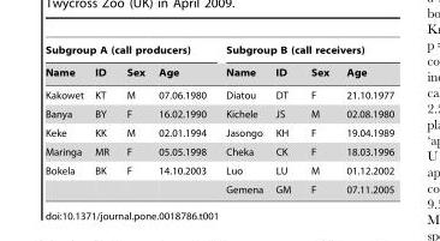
<table><thead><tr><td colspan="4">Subgroup A (call producers)</td><td colspan="4">Subgroup B (call receivers)</td></tr><tr><td>Name</td><td>ID</td><td>Sex</td><td>Age</td><td>Name</td><td>ID</td><td>Sex</td><td>Age</td></tr></thead><tbody><tr><td>Kakowet</td><td>KT</td><td>M</td><td>07.06.1980</td><td>Diatou</td><td>DT</td><td>F</td><td>21.10.1977</td></tr><tr><td>Banya</td><td>BY</td><td>F</td><td>16.02.1990</td><td>Kichele</td><td>JS</td><td>M</td><td>02.08.1980</td></tr><tr><td>Keke</td><td>KK</td><td>M</td><td>02.01.1994</td><td>Jasongo</td><td>KH</td><td>F</td><td>19.04.1989</td></tr><tr><td>Maringa</td><td>MR</td><td>F</td><td>05.05.1998</td><td>Cheka</td><td>CK</td><td>F</td><td>18.03.1996</td></tr><tr><td rowspan="2">Bokela</td><td>BK</td><td>F</td><td>14.10.2003</td><td>Luo</td><td>LU</td><td>M</td><td>01.12.2002</td></tr><tr><td></td><td></td><td></td><td>Gemena</td><td>GM</td><td>F</td><td>07.11.2005</td></tr></tbody></table>